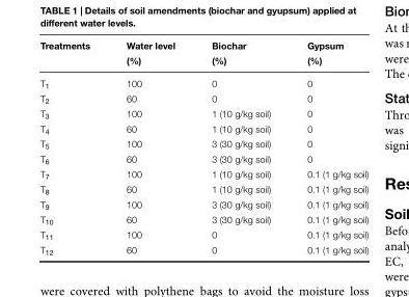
<table><thead><tr><td rowspan="2">Treatments</td><td rowspan="2">Water level (%)</td><td rowspan="2">Biochar (%)</td><td rowspan="2">Gypsum (%)</td></tr><tr></tr></thead><tbody><tr><td>T<sub>1</sub></td><td>100</td><td>0</td><td>0</td></tr><tr><td>T<sub>2</sub></td><td>60</td><td>0</td><td>0</td></tr><tr><td>T<sub>3</sub></td><td>100</td><td>1 (10 g/kg soil)</td><td>0</td></tr><tr><td>T<sub>4</sub></td><td>60</td><td>1 (10 g/kg soil)</td><td>0</td></tr><tr><td>T<sub>5</sub></td><td>100</td><td>3 (30 g/kg soil)</td><td>0</td></tr><tr><td>T<sub>6</sub></td><td>60</td><td>3 (30 g/kg soil)</td><td>0</td></tr><tr><td>T<sub>7</sub></td><td>100</td><td>1 (10 g/kg soil)</td><td>0.1 (1 g/kg soil)</td></tr><tr><td>T<sub>8</sub></td><td>60</td><td>1 (10 g/kg soil)</td><td>0.1 (1 g/kg soil)</td></tr><tr><td>T<sub>9</sub></td><td>100</td><td>3 (30 g/kg soil)</td><td>0.1 (1 g/kg soil)</td></tr><tr><td>T<sub>10</sub></td><td>60</td><td>3 (30 g/kg soil)</td><td>0.1 (1 g/kg soil)</td></tr><tr><td>T<sub>11</sub></td><td>100</td><td>0</td><td>0.1 (1 g/kg soil)</td></tr><tr><td>T<sub>12</sub></td><td>60</td><td>0</td><td>0.1 (1 g/kg soil)</td></tr></tbody></table>